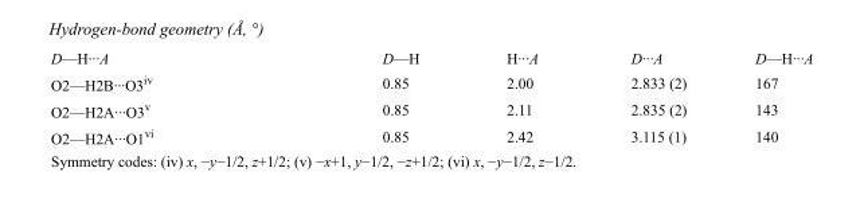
<table><tbody><tr><td>D—H···A</td><td>D—H</td><td>H···A</td><td>D···A</td><td>D—H···A</td></tr><tr><td>O2—H2B···O3<sup>iv</sup></td><td>0.85</td><td>2.00</td><td>2.833 (2)</td><td>167</td></tr><tr><td>O2—H2A···O3<sup>v</sup></td><td>0.85</td><td>2.11</td><td>2.835 (2)</td><td>143</td></tr><tr><td>O2—H2A···O1<sup>vi</sup></td><td>0.85</td><td>2.42</td><td>3.115 (1)</td><td>140</td></tr></tbody></table>